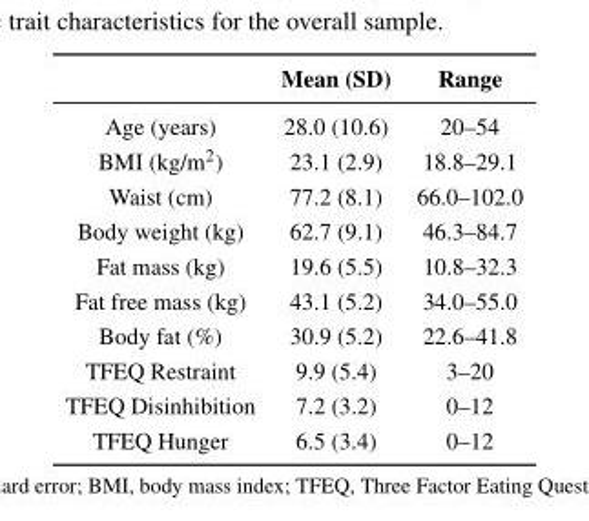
<table><thead><tr><td></td><td>Mean (SD)</td><td>Range</td></tr></thead><tbody><tr><td>Age (years)</td><td>28.0 (10.6)</td><td>20–54</td></tr><tr><td>BMI (kg/m<sup>2</sup>)</td><td>23.1 (2.9)</td><td>18.8–29.1</td></tr><tr><td>Waist (cm)</td><td>77.2 (8.1)</td><td>66.0–102.0</td></tr><tr><td>Body weight (kg)</td><td>62.7 (9.1)</td><td>46.3–84.7</td></tr><tr><td>Fat mass (kg)</td><td>19.6 (5.5)</td><td>10.8–32.3</td></tr><tr><td>Fat free mass (kg)</td><td>43.1 (5.2)</td><td>34.0–55.0</td></tr><tr><td>Body fat (%)</td><td>30.9 (5.2)</td><td>22.6–41.8</td></tr><tr><td>TFEQ Restraint</td><td>9.9 (5.4)</td><td>3–20</td></tr><tr><td>TFEQ Disinhibition</td><td>7.2 (3.2)</td><td>0–12</td></tr><tr><td>TFEQ Hunger</td><td>6.5 (3.4)</td><td>0–12</td></tr></tbody></table>